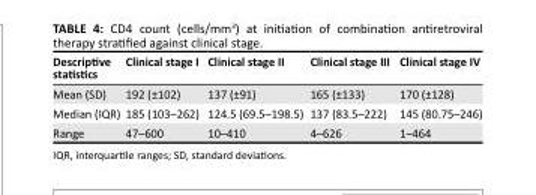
<table><thead><tr><td>Descriptive statistics</td><td>Clinical stage I</td><td>Clinical stage II</td><td>Clinical stage III</td><td>Clinical stage IV</td></tr></thead><tbody><tr><td>Mean (SD)</td><td>192 (±102)</td><td>137 (±91)</td><td>165 (±133)</td><td>170 (±128)</td></tr><tr><td>Median (IQR)</td><td>185 (103–262)</td><td>124.5 (69.5–198.5)</td><td>137 (83.5–222)</td><td>145 (80.75–246)</td></tr><tr><td>Range</td><td>47–600</td><td>10–410</td><td>4–626</td><td>1–464</td></tr></tbody></table>